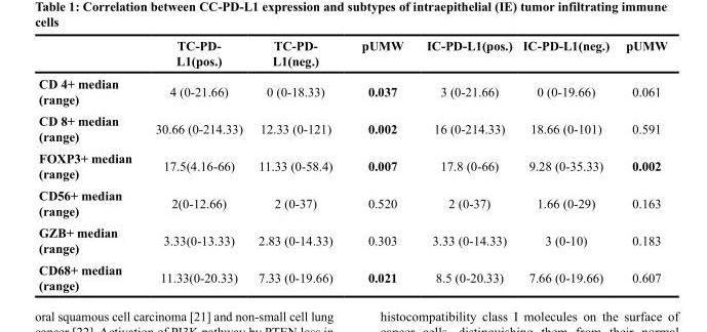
<table><thead><tr><td></td><td>TC-PD- L1(pos.)</td><td>TC-PD- L1(neg.)</td><td>pUMW</td><td>IC-PD-L1(pos.)</td><td>IC-PD-L1(neg.)</td><td>pUMW</td></tr></thead><tbody><tr><td>CD 4+ median (range)</td><td>4 (0-21.66)</td><td>0 (0-18.33)</td><td>0.037</td><td>3 (0-21.66)</td><td>0 (0-19.66)</td><td>0.061</td></tr><tr><td>CD 8+ median (range)</td><td>30.66 (0-214.33)</td><td>12.33 (0-121)</td><td>0.002</td><td>16 (0-214.33)</td><td>18.66 (0-101)</td><td>0.591</td></tr><tr><td>FOXP3+ median (range)</td><td>17.5(4.16-66)</td><td>11.33 (0-58.4)</td><td>0.007</td><td>17.8 (0-66)</td><td>9.28 (0-35.33)</td><td>0.002</td></tr><tr><td>CD56+ median (range)</td><td>2(0-12.66)</td><td>2 (0-37)</td><td>0.520</td><td>2 (0-37)</td><td>1.66 (0-29)</td><td>0.163</td></tr><tr><td>GZB+ median (range)</td><td>3.33(0-13.33)</td><td>2.83 (0-14.33)</td><td>0.303</td><td>3.33 (0-14.33)</td><td>3 (0-10)</td><td>0.183</td></tr><tr><td>CD68+ median (range)</td><td>11.33(0-20.33)</td><td>7.33 (0-19.66)</td><td>0.021</td><td>8.5 (0-20.33)</td><td>7.66 (0-19.66)</td><td>0.607</td></tr></tbody></table>